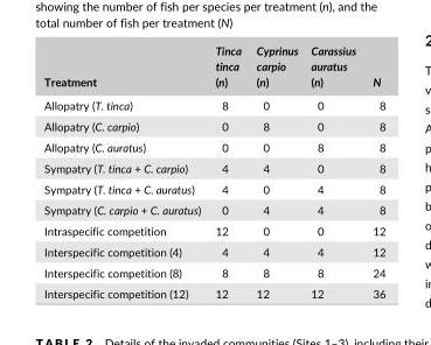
<table><thead><tr><td>Treatment</td><td>Tinca tinca (n)</td><td>Cyprinus carpio (n)</td><td>Carassius auratus (n)</td><td>N</td></tr></thead><tbody><tr><td>Allopatry (T. tinca)</td><td>8</td><td>0</td><td>0</td><td>8</td></tr><tr><td>Allopatry (C. carpio)</td><td>0</td><td>8</td><td>0</td><td>8</td></tr><tr><td>Allopatry (C. auratus)</td><td>0</td><td>0</td><td>8</td><td>8</td></tr><tr><td>Sympatry (T. tinca + C. carpio)</td><td>4</td><td>4</td><td>0</td><td>8</td></tr><tr><td>Sympatry (T. tinca + C. auratus)</td><td>4</td><td>0</td><td>4</td><td>8</td></tr><tr><td>Sympatry (C. carpio + C. auratus)</td><td>0</td><td>4</td><td>4</td><td>8</td></tr><tr><td>Intraspecific competition</td><td>12</td><td>0</td><td>0</td><td>12</td></tr><tr><td>Interspecific competition (4)</td><td>4</td><td>4</td><td>4</td><td>12</td></tr><tr><td>Interspecific competition (8)</td><td>8</td><td>8</td><td>8</td><td>24</td></tr><tr><td>Interspecific competition (12)</td><td>12</td><td>12</td><td>12</td><td>36</td></tr></tbody></table>